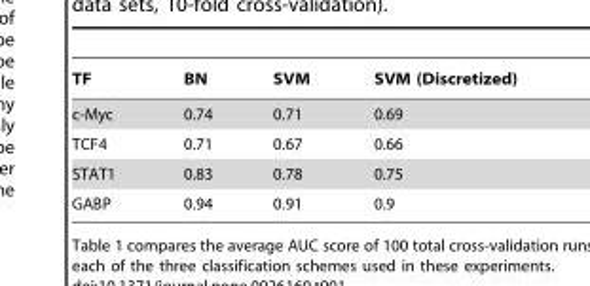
<table><thead><tr><td>TF</td><td>BN</td><td>SVM</td><td>SVM (Discretized)</td></tr></thead><tbody><tr><td>c-Myc</td><td>0.74</td><td>0.71</td><td>0.69</td></tr><tr><td>TCF4</td><td>0.71</td><td>0.67</td><td>0.66</td></tr><tr><td>STAT1</td><td>0.83</td><td>0.78</td><td>0.75</td></tr><tr><td>GABP</td><td>0.94</td><td>0.91</td><td>0.9</td></tr></tbody></table>